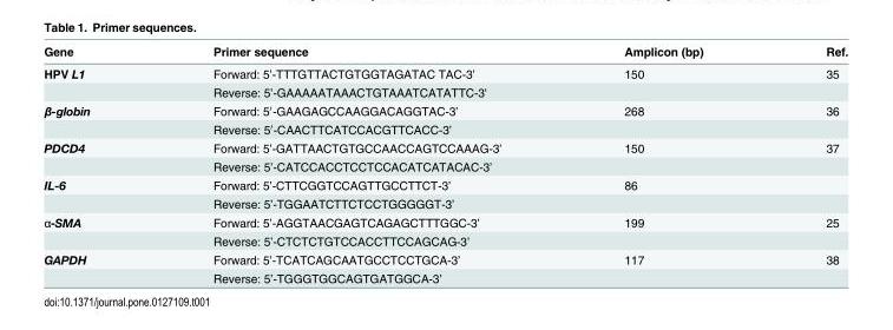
<table><thead><tr><td>Gene</td><td>Primer sequence</td><td>Amplicon (bp)</td><td>Ref.</td></tr></thead><tbody><tr><td rowspan="2">HPV L1</td><td>Forward: 5’-TTTGTTACTGTGGTAGATAC TAC-3’</td><td>150</td><td>35</td></tr><tr><td>Reverse: 5’-GAAAAATAAACTGTAAATCATATTC-3&#x27;</td><td></td><td></td></tr><tr><td rowspan="2">β-globin</td><td>Forward: 5′-GAAGAGCCAAGGACAGGTAC-3’</td><td>268</td><td>36</td></tr><tr><td>Reverse: 5′-CAACTTCATCCACGTTCACC-3’</td><td></td><td></td></tr><tr><td rowspan="2">PDCD4</td><td>Forward: 5’-GATTAACTGTGCCAACCAGTCCAAAG-3’</td><td>150</td><td>37</td></tr><tr><td>Reverse: 5’-CATCCACCTCCTCCACATCATACAC-3’</td><td></td><td></td></tr><tr><td rowspan="2">IL-6</td><td>Forward: 5’-CTTCGGTCCAGTTGCCTTCT-3’</td><td>86</td><td></td></tr><tr><td>Reverse: 5’-TGGAATCTTCTCCTGGGGGT-3’</td><td></td><td></td></tr><tr><td rowspan="2">α-SMA</td><td>Forward: 5’-AGGTAACGAGTCAGAGCTTTGGC-3’</td><td>199</td><td>25</td></tr><tr><td>Reverse: 5’-CTCTCTGTCCACCTTCCAGCAG-3’</td><td></td><td></td></tr><tr><td rowspan="2">GAPDH</td><td>Forward: 5’-TCATCAGCAATGCCTCCTGCA-3’</td><td>117</td><td>38</td></tr><tr><td>Reverse: 5’-TGGGTGGCAGTGATGGCA-3’</td><td></td><td></td></tr></tbody></table>